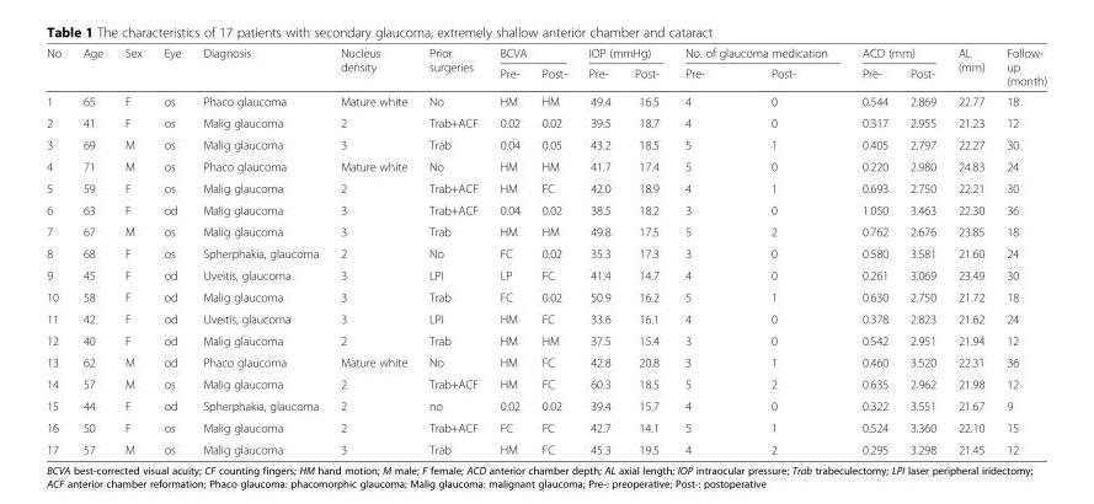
<table><thead><tr><td rowspan="2">No</td><td rowspan="2">Age</td><td rowspan="2">Sex</td><td rowspan="2">Eye</td><td rowspan="2">Diagnosis</td><td rowspan="2">Nucleus density</td><td rowspan="2">Prior surgeries</td><td colspan="2">BCVA</td><td colspan="2">IOP (mmHg)</td><td colspan="2">No. of glaucoma medication</td><td colspan="2">ACD (mm)</td><td rowspan="2">AL (mm)</td><td rowspan="2">Follow- up (month)</td></tr><tr><td>Pre-</td><td>Post-</td><td>Pre-</td><td>Post-</td><td>Pre-</td><td>Post-</td><td>Pre-</td><td>Post-</td></tr></thead><tbody><tr><td>1</td><td>65</td><td>F</td><td>os</td><td>Phaco glaucoma</td><td>Mature white</td><td>No</td><td>HM</td><td>HM</td><td>49.4</td><td>16.5</td><td>4</td><td>0</td><td>0.544</td><td>2.869</td><td>22.77</td><td>18</td></tr><tr><td>2</td><td>41</td><td>F</td><td>os</td><td>Malig glaucoma</td><td>2</td><td>Trab+ACF</td><td>0.02</td><td>0.02</td><td>39.5</td><td>18.7</td><td>4</td><td>0</td><td>0.317</td><td>2.955</td><td>21.23</td><td>12</td></tr><tr><td>3</td><td>69</td><td>M</td><td>os</td><td>Malig glaucoma</td><td>3</td><td>Trab</td><td>0.04</td><td>0.05</td><td>43.2</td><td>18.5</td><td>5</td><td>1</td><td>0.405</td><td>2.797</td><td>22.27</td><td>30</td></tr><tr><td>4</td><td>71</td><td>M</td><td>os</td><td>Phaco glaucoma</td><td>Mature white</td><td>No</td><td>HM</td><td>HM</td><td>41.7</td><td>17.4</td><td>5</td><td>0</td><td>0.220</td><td>2.980</td><td>24.83</td><td>24</td></tr><tr><td>5</td><td>59</td><td>F</td><td>os</td><td>Malig glaucoma</td><td>2</td><td>Trab+ACF</td><td>HM</td><td>FC</td><td>42.0</td><td>18.9</td><td>4</td><td>1</td><td>0.693</td><td>2.750</td><td>22.21</td><td>30</td></tr><tr><td>6</td><td>63</td><td>F</td><td>od</td><td>Malig glaucoma</td><td>3</td><td>Trab+ACF</td><td>0.04</td><td>0.02</td><td>38.5</td><td>18.2</td><td>3</td><td>0</td><td>1.050</td><td>3.463</td><td>22.30</td><td>36</td></tr><tr><td>7</td><td>67</td><td>M</td><td>os</td><td>Malig glaucoma</td><td>3</td><td>Trab</td><td>HM</td><td>HM</td><td>49.8</td><td>17.5</td><td>5</td><td>2</td><td>0.762</td><td>2.676</td><td>23.85</td><td>18</td></tr><tr><td>8</td><td>68</td><td>F</td><td>os</td><td>Spherphakia, glaucoma</td><td>2</td><td>No</td><td>FC</td><td>0.02</td><td>35.3</td><td>17.3</td><td>3</td><td>0</td><td>0.580</td><td>3.581</td><td>21.60</td><td>24</td></tr><tr><td>9</td><td>45</td><td>F</td><td>od</td><td>Uveitis, glaucoma</td><td>3</td><td>LPI</td><td>LP</td><td>FC</td><td>41.4</td><td>14.7</td><td>4</td><td>0</td><td>0.261</td><td>3.069</td><td>23.49</td><td>30</td></tr><tr><td>10</td><td>58</td><td>F</td><td>od</td><td>Malig glaucoma</td><td>3</td><td>Trab</td><td>FC</td><td>0.02</td><td>50.9</td><td>16.2</td><td>5</td><td>1</td><td>0.630</td><td>2.750</td><td>21.72</td><td>18</td></tr><tr><td>11</td><td>42</td><td>F</td><td>od</td><td>Uveitis, glaucoma</td><td>3</td><td>LPI</td><td>HM</td><td>FC</td><td>33.6</td><td>16.1</td><td>4</td><td>0</td><td>0.378</td><td>2.823</td><td>21.62</td><td>24</td></tr><tr><td>12</td><td>40</td><td>F</td><td>od</td><td>Malig glaucoma</td><td>2</td><td>Trab</td><td>HM</td><td>HM</td><td>37.5</td><td>15.4</td><td>3</td><td>0</td><td>0.542</td><td>2.951</td><td>21.94</td><td>12</td></tr><tr><td>13</td><td>62</td><td>M</td><td>od</td><td>Phaco glaucoma</td><td>Mature white</td><td>No</td><td>HM</td><td>FC</td><td>42.8</td><td>20.8</td><td>3</td><td>1</td><td>0.460</td><td>3.520</td><td>22.31</td><td>36</td></tr><tr><td>14</td><td>57</td><td>M</td><td>os</td><td>Malig glaucoma</td><td>2</td><td>Trab+ACF</td><td>HM</td><td>FC</td><td>60.3</td><td>18.5</td><td>5</td><td>2</td><td>0.635</td><td>2.962</td><td>21.98</td><td>12</td></tr><tr><td>15</td><td>44</td><td>F</td><td>od</td><td>Spherphakia, glaucoma</td><td>2</td><td>no</td><td>0.02</td><td>0.02</td><td>39.4</td><td>15.7</td><td>4</td><td>0</td><td>0.322</td><td>3.551</td><td>21.67</td><td>9</td></tr><tr><td>16</td><td>50</td><td>F</td><td>os</td><td>Malig glaucoma</td><td>2</td><td>Trab+ACF</td><td>FC</td><td>FC</td><td>42.7</td><td>14.1</td><td>5</td><td>1</td><td>0.524</td><td>3.360</td><td>22.10</td><td>15</td></tr><tr><td>17</td><td>57</td><td>M</td><td>os</td><td>Malig glaucoma</td><td>3</td><td>Trab</td><td>HM</td><td>FC</td><td>45.3</td><td>19.5</td><td>4</td><td>2</td><td>0.295</td><td>3.298</td><td>21.45</td><td>12</td></tr></tbody></table>